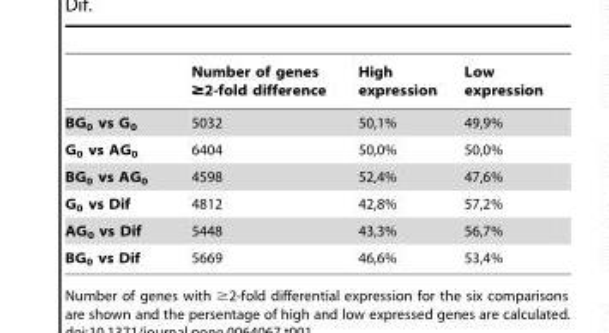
<table><thead><tr><td></td><td>Number of genes ≥2-fold difference</td><td>High expression</td><td>Low expression</td></tr></thead><tbody><tr><td>BG<sub>0</sub> vs G<sub>0</sub></td><td>5032</td><td>50,1%</td><td>49,9%</td></tr><tr><td>G<sub>0</sub> vs AG<sub>0</sub></td><td>6404</td><td>50,0%</td><td>50,0%</td></tr><tr><td>BG<sub>0</sub> vs AG<sub>0</sub></td><td>4598</td><td>52,4%</td><td>47,6%</td></tr><tr><td>G<sub>0</sub> vs Dif</td><td>4812</td><td>42,8%</td><td>57,2%</td></tr><tr><td>AG<sub>0</sub> vs Dif</td><td>5448</td><td>43,3%</td><td>56,7%</td></tr><tr><td>BG<sub>0</sub> vs Dif</td><td>5669</td><td>46,6%</td><td>53,4%</td></tr></tbody></table>